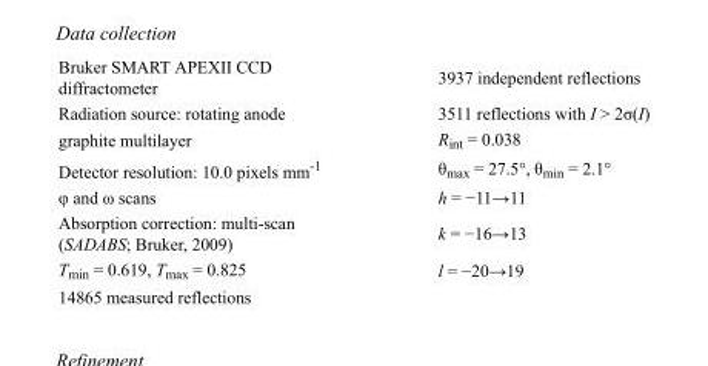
<table><tbody><tr><td>Bruker SMART APEXII CCD diffractometer</td><td>3937 independent reflections</td></tr><tr><td>Radiation source: rotating anode</td><td>3511 reflections with I &gt; 2σ(I)</td></tr><tr><td>graphite multilayer</td><td>R<sub>int</sub> = 0.038</td></tr><tr><td>Detector resolution: 10.0 pixels mm<sup>-1</sup></td><td>θ<sub>max</sub> = 27.5°, θ<sub>min</sub> = 2.1°</td></tr><tr><td>φ and ω scans</td><td>h = −11→11</td></tr><tr><td>Absorption correction: multi-scan (SADABS; Bruker, 2009)</td><td>k = −16→13</td></tr><tr><td>T<sub>min</sub> = 0.619, T<sub>max</sub> = 0.825</td><td>l = −20→19</td></tr><tr><td>14865 measured reflections</td><td></td></tr></tbody></table>